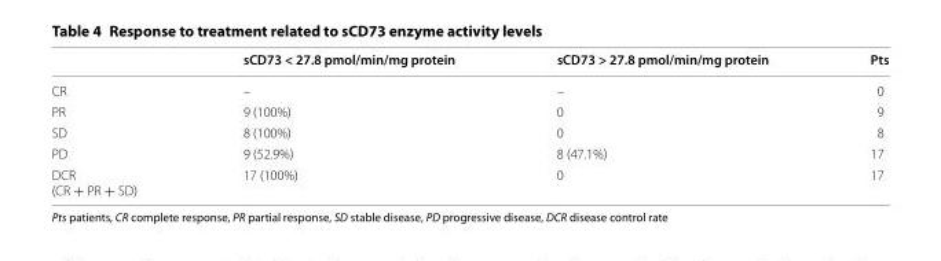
<table><thead><tr><td></td><td>sCD73 &lt; 27.8 pmol/min/mg protein</td><td>sCD73 &gt; 27.8 pmol/min/mg protein</td><td>Pts</td></tr></thead><tbody><tr><td>CR</td><td>–</td><td>–</td><td>0</td></tr><tr><td>PR</td><td>9 (100%)</td><td>0</td><td>9</td></tr><tr><td>SD</td><td>8 (100%)</td><td>0</td><td>8</td></tr><tr><td>PD</td><td>9 (52.9%)</td><td>8 (47.1%)</td><td>17</td></tr><tr><td>DCR (CR + PR + SD)</td><td>17 (100%)</td><td>0</td><td>17</td></tr></tbody></table>